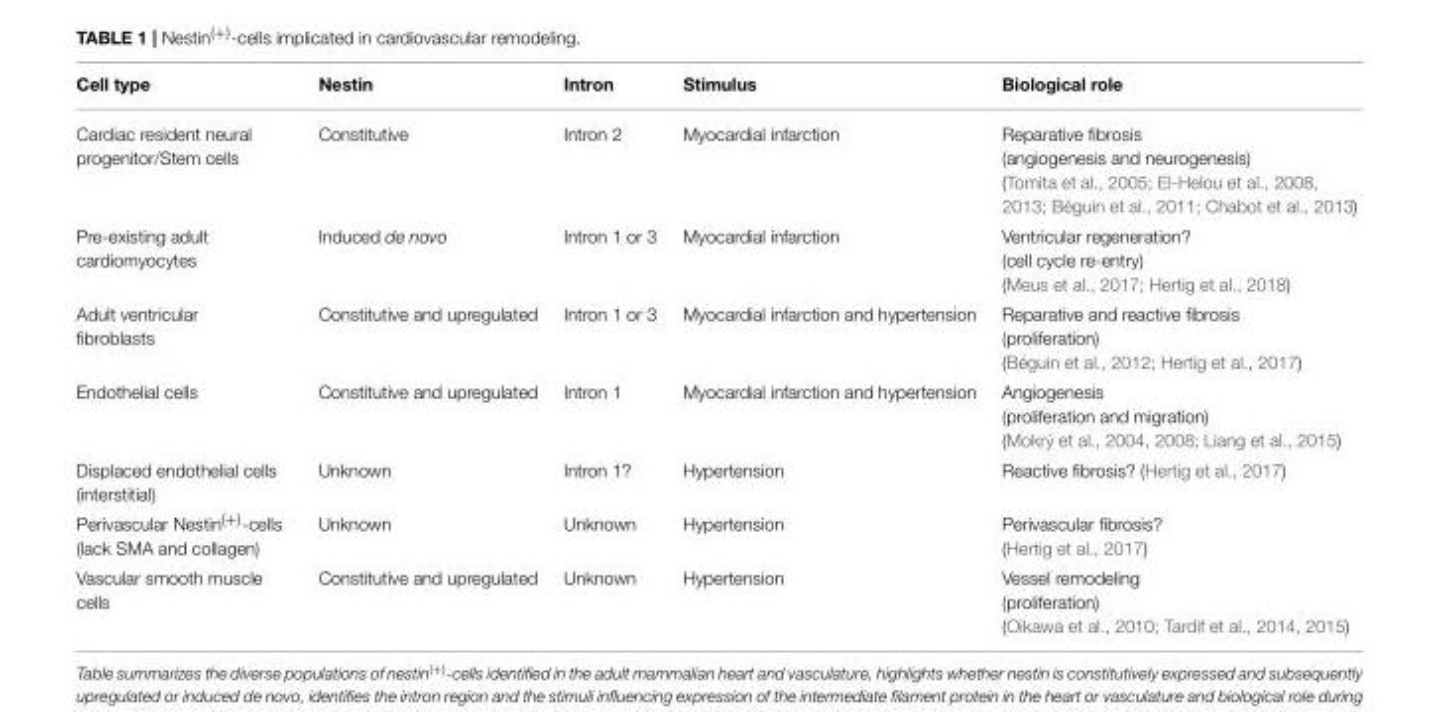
<table><thead><tr><td>Cell type</td><td>Nestin</td><td>Intron</td><td>Stimulus</td><td>Biological role</td></tr></thead><tbody><tr><td>Cardiac resident neural progenitor/Stem cells</td><td>Constitutive</td><td>Intron 2</td><td>Myocardial infarction</td><td>Reparative fibrosis (angiogenesis and neurogenesis) (Tomita et al., 2005; El-Helou et al., 2008, 2013; Béguin et al., 2011; Chabot et al., 2013)</td></tr><tr><td>Pre-existing adult cardiomyocytes</td><td>Induced de novo</td><td>Intron 1 or 3</td><td>Myocardial infarction</td><td>Ventricular regeneration? (cell cycle re-entry) (Meus et al., 2017; Hertig et al., 2018)</td></tr><tr><td>Adult ventricular fibroblasts</td><td>Constitutive and upregulated</td><td>Intron 1 or 3</td><td>Myocardial infarction and hypertension</td><td>Reparative and reactive fibrosis (proliferation) (Béguin et al., 2012; Hertig et al., 2017)</td></tr><tr><td>Endothelial cells</td><td>Constitutive and upregulated</td><td>Intron 1</td><td>Myocardial infarction and hypertension</td><td>Angiogenesis (proliferation and migration) (Mokrý et al., 2004, 2008; Liang et al., 2015)</td></tr><tr><td>Displaced endothelial cells (interstitial)</td><td>Unknown</td><td>Intron 1?</td><td>Hypertension</td><td>Reactive fibrosis? (Hertig et al., 2017)</td></tr><tr><td>Perivascular Nestin<sup>(+)</sup>-cells (lack SMA and collagen)</td><td>Unknown</td><td>Unknown</td><td>Hypertension</td><td>Perivascular fibrosis? (Hertig et al., 2017)</td></tr><tr><td>Vascular smooth muscle cells</td><td>Constitutive and upregulated</td><td>Unknown</td><td>Hypertension</td><td>Vessel remodeling (proliferation) (Oikawa et al., 2010; Tardif et al., 2014, 2015)</td></tr></tbody></table>